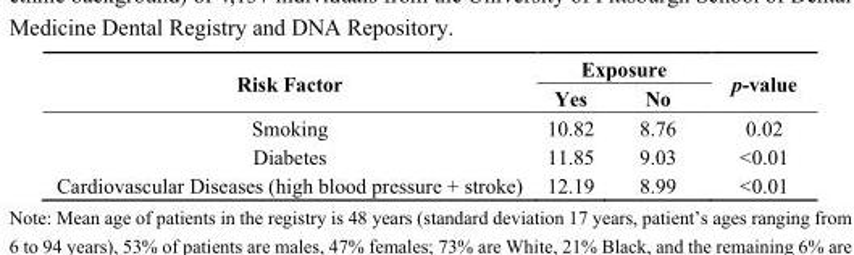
<table><thead><tr><td rowspan="2">Risk Factor</td><td colspan="2">Exposure</td><td rowspan="2">p-value</td></tr><tr><td>Yes</td><td>No</td></tr></thead><tbody><tr><td>Smoking</td><td>10.82</td><td>8.76</td><td>0.02</td></tr><tr><td>Diabetes</td><td>11.85</td><td>9.03</td><td>&lt;0.01</td></tr><tr><td>Cardiovascular Diseases (high blood pressure + stroke)</td><td>12.19</td><td>8.99</td><td>&lt;0.01</td></tr></tbody></table>